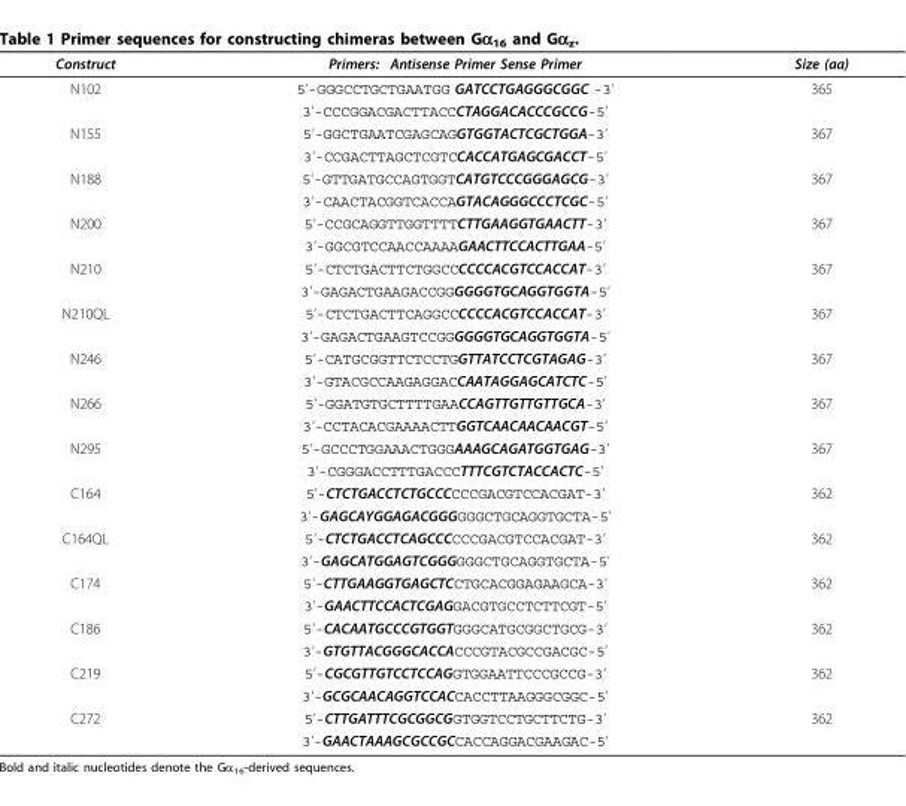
<table><thead><tr><td>Construct</td><td>Primers:</td><td>Antisense Primer Sense Primer</td><td>Size (aa)</td></tr></thead><tbody><tr><td rowspan="2">N102</td><td colspan="2">5’-GGGCCTGCTGAATGG GATCCTGAGGGCGGC -3’</td><td>365</td></tr><tr><td colspan="2">3’-CCCGGACGACTTACCCTAGGACACCCGCCG-5’</td><td></td></tr><tr><td rowspan="2">N155</td><td colspan="2">5’-GGCTGAATCGAGCAGGTGGTACTCGCTGGA-3’</td><td>367</td></tr><tr><td colspan="2">3’-CCGACTTAGCTCGTCCACCATGAGCGACCT-5’</td><td></td></tr><tr><td rowspan="2">N188</td><td colspan="2">5’-GTTGATGCCAGTGGTCATGTCCCGGGAGCG-3’</td><td>367</td></tr><tr><td colspan="2">3’-CAACTACGGTCACCAGTACAGGGCCCTCGC-5’</td><td></td></tr><tr><td rowspan="2">N200</td><td colspan="2">5’-CCGCAGGTTGGTTTTCTTGAAGGTGAACTT-3’</td><td>367</td></tr><tr><td colspan="2">3’-GGCGTCCAACCAAAAGAACTTCCACTTGAA-5’</td><td></td></tr><tr><td rowspan="2">N210</td><td colspan="2">5’-CTCTGACTTCTGGCCCCCCACGTCCACCAT-3’</td><td>367</td></tr><tr><td colspan="2">3’-GAGACTGAAGACCGGGGGGTGCAGGTGGTA-5’</td><td></td></tr><tr><td rowspan="2">N210QL</td><td colspan="2">5’-CTCTGACTTCAGGCCCCCCACGTCCACCAT-3’</td><td>367</td></tr><tr><td colspan="2">3’-GAGACTGAAGTCCGGGGGGTGCAGGTGGTA-5’</td><td></td></tr><tr><td rowspan="2">N246</td><td colspan="2">5’-CATGCGGTTCTCCTGGTTATCCTCGTAGAG-3’</td><td>367</td></tr><tr><td colspan="2">3’-GTACGCCAAGAGGACCAATAGGAGCATCTC-5’</td><td></td></tr><tr><td rowspan="2">N266</td><td colspan="2">5’-GGATGTGCTTTTGAACCAGTTGTTGTTGCA-3’</td><td>367</td></tr><tr><td colspan="2">3’-CCTACACGAAAACTTGGTCAACAACAACGT-5’</td><td></td></tr><tr><td rowspan="2">N295</td><td colspan="2">5’-GCCCTGGAAACTGGGAAAGCAGATGGTGAG-3’</td><td>367</td></tr><tr><td colspan="2">3’-CGGGACCTTTGACCCTTTCGTCTACCACTC-5’</td><td></td></tr><tr><td rowspan="2">C164</td><td colspan="2">5’-CTCTGACCTCTGCCCCCCGACGTCCACGAT-3’</td><td>362</td></tr><tr><td colspan="2">3’-GAGCAYGGAGACGGGGGGCTGCAGGTGCTA-5’</td><td></td></tr><tr><td rowspan="2">C164QL</td><td colspan="2">5’-CTCTGACCTCAGCCCCCCGACGTCCACGAT-3’</td><td>362</td></tr><tr><td colspan="2">3’-GAGCATGGAGTCGGGGGGCTGCAGGTGCTA-5’</td><td></td></tr><tr><td rowspan="2">C174</td><td colspan="2">5’-CTTGAAGGTGAGCTCCTGCACGGAGAAGCA-3’</td><td>362</td></tr><tr><td colspan="2">3’-GAACTTCCACTCGAGGACGTGCCTCTTCGT-5’</td><td></td></tr><tr><td rowspan="2">C186</td><td colspan="2">5’-CACAATGCCCGTGGTGGGCATGCGGCTGCG-3’</td><td>362</td></tr><tr><td colspan="2">3’-GTGTTACGGGCACCACCCGTACGCCGACGC-5’</td><td></td></tr><tr><td rowspan="2">C219</td><td colspan="2">5’-CGCGTTGTCCTCCAGGTGGAATTCCCGCCG-3’</td><td>362</td></tr><tr><td colspan="2">3’-GCGCAACAGGTCCACCACCTTAAGGGCGGC-5’</td><td></td></tr><tr><td rowspan="2">C272</td><td colspan="2">5’-CTTGATTTCGCGGCGGTGGTCCTGCTTCTG-3’</td><td>362</td></tr><tr><td colspan="2">3’-GAACTAAAGCGCCGCCACCAGGACGAAGAC-5’</td><td></td></tr></tbody></table>